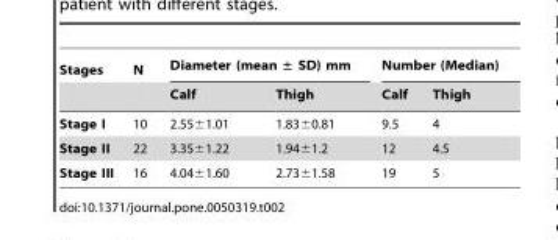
<table><thead><tr><td rowspan="2">Stages</td><td rowspan="2">N</td><td colspan="2">Diameter (mean ± SD) mm</td><td colspan="2">Number (Median)</td></tr><tr><td>Calf</td><td>Thigh</td><td>Calf</td><td>Thigh</td></tr></thead><tbody><tr><td>Stage I</td><td>10</td><td>2.55±1.01</td><td>1.83±0.81</td><td>9.5</td><td>4</td></tr><tr><td>Stage II</td><td>22</td><td>3.35±1.22</td><td>1.94±1.2</td><td>12</td><td>4.5</td></tr><tr><td>Stage III</td><td>16</td><td>4.04±1.60</td><td>2.73±1.58</td><td>19</td><td>5</td></tr></tbody></table>